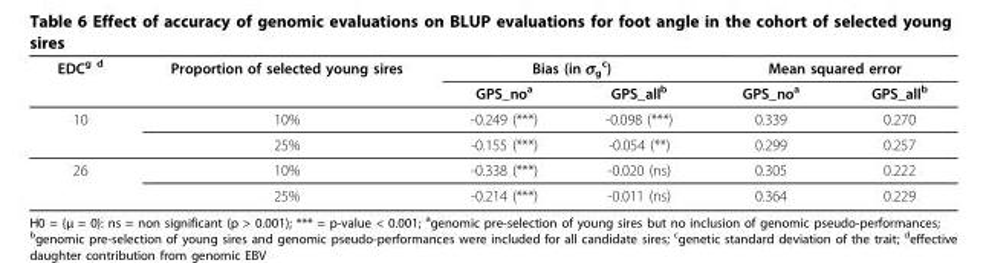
<table><thead><tr><td rowspan="2">EDC<sup>g d</sup></td><td rowspan="2">Proportion of selected young sires</td><td colspan="2">Bias (in σ<sub>g</sub> <sup>c</sup>)</td><td colspan="2">Mean squared error</td></tr><tr><td>GPS_no<sup>a</sup></td><td>GPS_all<sup>b</sup></td><td>GPS_no<sup>a</sup></td><td>GPS_all<sup>b</sup></td></tr></thead><tbody><tr><td rowspan="2">10</td><td>10%</td><td>-0.249 (***)</td><td>-0.098 (***)</td><td>0.339</td><td>0.270</td></tr><tr><td>25%</td><td>-0.155 (***)</td><td>-0.054 (**)</td><td>0.299</td><td>0.257</td></tr><tr><td rowspan="2">26</td><td>10%</td><td>-0.338 (***)</td><td>-0.020 (ns)</td><td>0.305</td><td>0.222</td></tr><tr><td>25%</td><td>-0.214 (***)</td><td>-0.011 (ns)</td><td>0.364</td><td>0.229</td></tr></tbody></table>